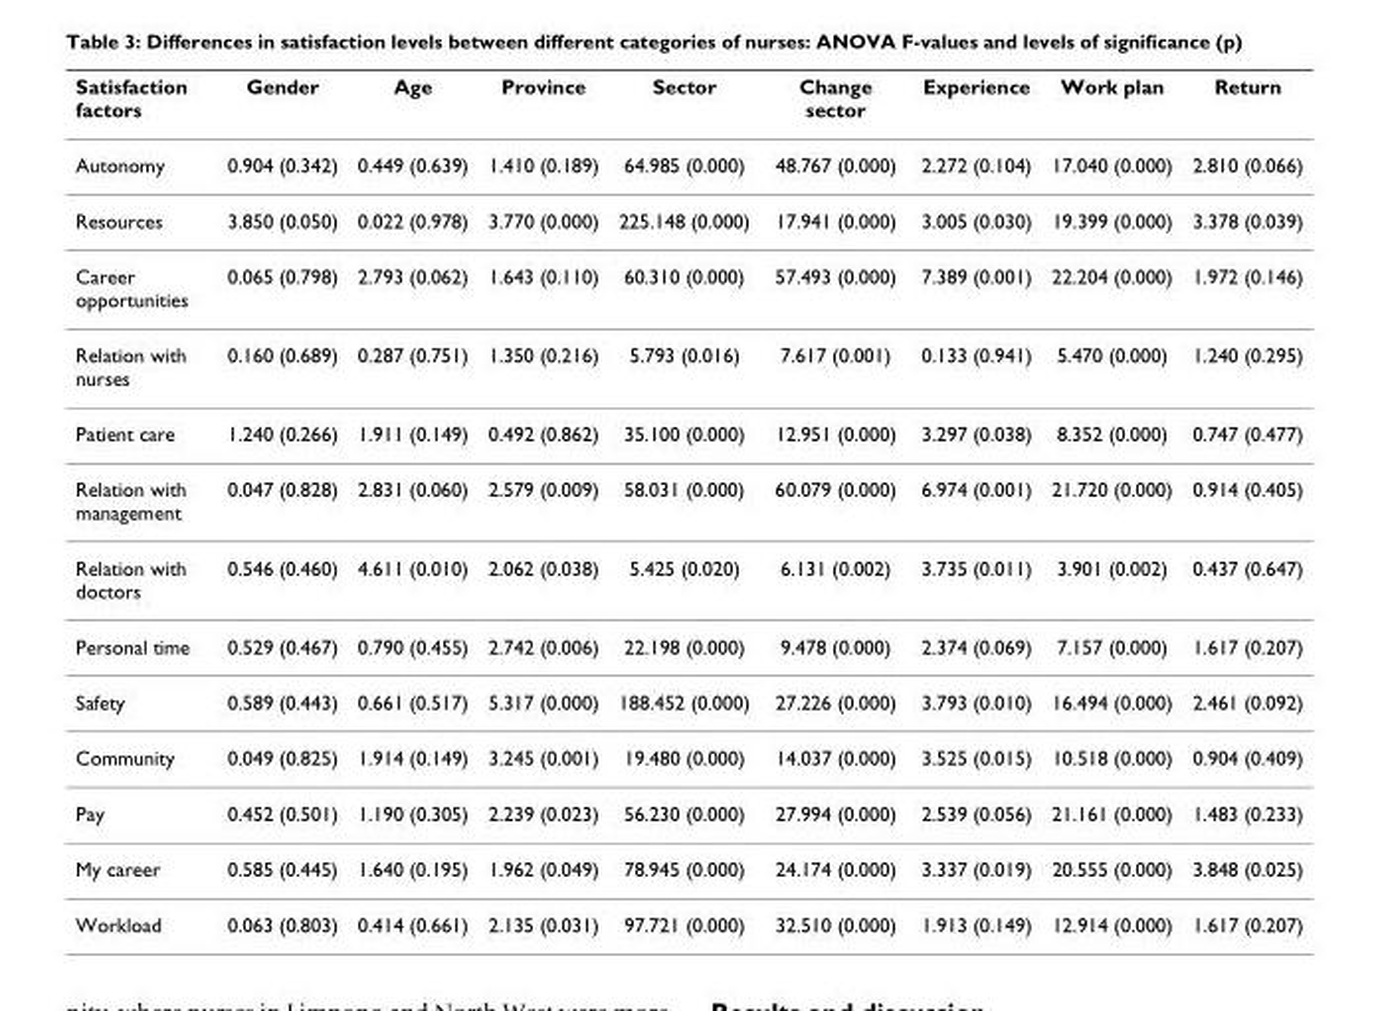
<table><thead><tr><td>Satisfaction factors</td><td>Gender</td><td>Age</td><td>Province</td><td>Sector</td><td>Change sector</td><td>Experience</td><td>Work plan</td><td>Return</td></tr></thead><tbody><tr><td>Autonomy</td><td>0.904 (0.342)</td><td>0.449 (0.639)</td><td>1.410 (0.189)</td><td>64.985 (0.000)</td><td>48.767 (0.000)</td><td>2.272 (0.104)</td><td>17.040 (0.000)</td><td>2.810 (0.066)</td></tr><tr><td>Resources</td><td>3.850 (0.050)</td><td>0.022 (0.978)</td><td>3.770 (0.000)</td><td>225.148 (0.000)</td><td>17.941 (0.000)</td><td>3.005 (0.030)</td><td>19.399 (0.000)</td><td>3.378 (0.039)</td></tr><tr><td>Career opportunities</td><td>0.065 (0.798)</td><td>2.793 (0.062)</td><td>1.643 (0.110)</td><td>60.310 (0.000)</td><td>57.493 (0.000)</td><td>7.389 (0.001)</td><td>22.204 (0.000)</td><td>1.972 (0.146)</td></tr><tr><td>Relation with nurses</td><td>0.160 (0.689)</td><td>0.287 (0.751)</td><td>1.350 (0.216)</td><td>5.793 (0.016)</td><td>7.617 (0.001)</td><td>0.133 (0.941)</td><td>5.470 (0.000)</td><td>1.240 (0.295)</td></tr><tr><td>Patient care</td><td>1.240 (0.266)</td><td>1.911 (0.149)</td><td>0.492 (0.862)</td><td>35.100 (0.000)</td><td>12.951 (0.000)</td><td>3.297 (0.038)</td><td>8.352 (0.000)</td><td>0.747 (0.477)</td></tr><tr><td>Relation with management</td><td>0.047 (0.828)</td><td>2.831 (0.060)</td><td>2.579 (0.009)</td><td>58.031 (0.000)</td><td>60.079 (0.000)</td><td>6.974 (0.001)</td><td>21.720 (0.000)</td><td>0.914 (0.405)</td></tr><tr><td>Relation with doctors</td><td>0.546 (0.460)</td><td>4.611 (0.010)</td><td>2.062 (0.038)</td><td>5.425 (0.020)</td><td>6.131 (0.002)</td><td>3.735 (0.011)</td><td>3.901 (0.002)</td><td>0.437 (0.647)</td></tr><tr><td>Personal time</td><td>0.529 (0.467)</td><td>0.790 (0.455)</td><td>2.742 (0.006)</td><td>22.198 (0.000)</td><td>9.478 (0.000)</td><td>2.374 (0.069)</td><td>7.157 (0.000)</td><td>1.617 (0.207)</td></tr><tr><td>Safety</td><td>0.589 (0.443)</td><td>0.661 (0.517)</td><td>5.317 (0.000)</td><td>188.452 (0.000)</td><td>27.226 (0.000)</td><td>3.793 (0.010)</td><td>16.494 (0.000)</td><td>2.461 (0.092)</td></tr><tr><td>Community</td><td>0.049 (0.825)</td><td>1.914 (0.149)</td><td>3.245 (0.001)</td><td>19.480 (0.000)</td><td>14.037 (0.000)</td><td>3.525 (0.015)</td><td>10.518 (0.000)</td><td>0.904 (0.409)</td></tr><tr><td>Pay</td><td>0.452 (0.501)</td><td>1.190 (0.305)</td><td>2.239 (0.023)</td><td>56.230 (0.000)</td><td>27.994 (0.000)</td><td>2.539 (0.056)</td><td>21.161 (0.000)</td><td>1.483 (0.233)</td></tr><tr><td>My career</td><td>0.585 (0.445)</td><td>1.640 (0.195)</td><td>1.962 (0.049)</td><td>78.945 (0.000)</td><td>24.174 (0.000)</td><td>3.337 (0.019)</td><td>20.555 (0.000)</td><td>3.848 (0.025)</td></tr><tr><td>Workload</td><td>0.063 (0.803)</td><td>0.414 (0.661)</td><td>2.135 (0.031)</td><td>97.721 (0.000)</td><td>32.510 (0.000)</td><td>1.913 (0.149)</td><td>12.914 (0.000)</td><td>1.617 (0.207)</td></tr></tbody></table>